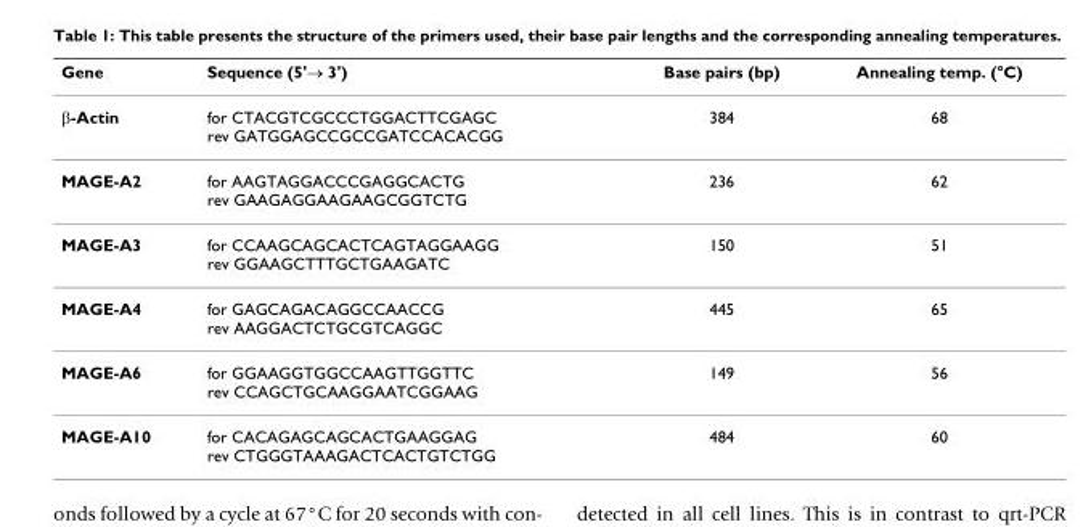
<table><thead><tr><td>Gene</td><td>Sequence (5&#x27;→ 3&#x27;)</td><td>Base pairs (bp)</td><td>Annealing temp. (°C)</td></tr></thead><tbody><tr><td>β-Actin</td><td>for CTACGTCGCCCTGGACTTCGAGC rev GATGGAGCCGCCGATCCACACGG</td><td>384</td><td>68</td></tr><tr><td>MAGE-A2</td><td>for AAGTAGGACCCGAGGCACTG rev GAAGAGGAAGAAGCGGTCTG</td><td>236</td><td>62</td></tr><tr><td>MAGE-A3</td><td>for CCAAGCAGCACTCAGTAGGAAGG rev GGAAGCTTTGCTGAAGATC</td><td>150</td><td>51</td></tr><tr><td>MAGE-A4</td><td>for GAGCAGACAGGCCAACCG rev AAGGACTCTGCGTCAGGC</td><td>445</td><td>65</td></tr><tr><td>MAGE-A6</td><td>for GGAAGGTGGCCAAGTTGGTTC rev CCAGCTGCAAGGAATCGGAAG</td><td>149</td><td>56</td></tr><tr><td>MAGE-A10</td><td>for CACAGAGCAGCACTGAAGGAG rev CTGGGTAAAGACTCACTGTCTGG</td><td>484</td><td>60</td></tr></tbody></table>